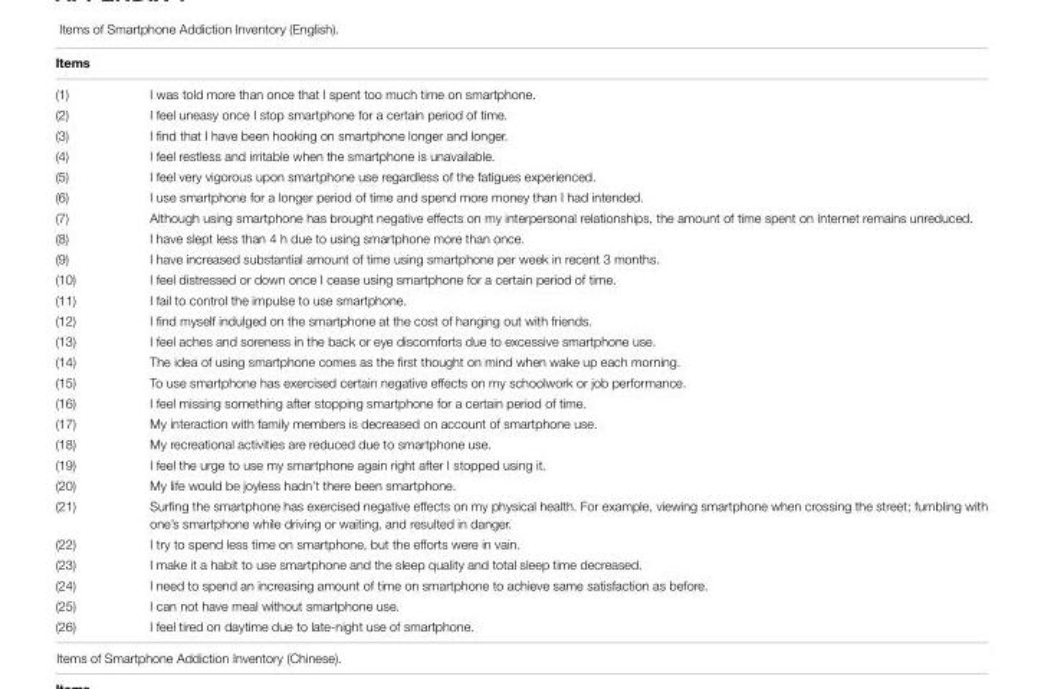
<table><thead><tr><td colspan="2">Items</td></tr><tr><td>(1)</td><td>I was told more than once that I spent too much time on smartphone.</td></tr></thead><tbody><tr><td>(2)</td><td>I feel uneasy once I stop smartphone for a certain period of time.</td></tr><tr><td>(3)</td><td>I find that I have been hooking on smartphone longer and longer.</td></tr><tr><td>(4)</td><td>I feel restless and irritable when the smartphone is unavailable.</td></tr><tr><td>(5)</td><td>I feel very vigorous upon smartphone use regardless of the fatigues experienced.</td></tr><tr><td>(6)</td><td>I use smartphone for a longer period of time and spend more money than I had intended.</td></tr><tr><td>(7)</td><td>Although using smartphone has brought negative effects on my interpersonal relationships, the amount of time spent on Internet remains unreduced.</td></tr><tr><td>(8)</td><td>I have slept less than 4 h due to using smartphone more than once.</td></tr><tr><td>(9)</td><td>I have increased substantial amount of time using smartphone per week in recent 3 months.</td></tr><tr><td>(10)</td><td>I feel distressed or down once I cease using smartphone for a certain period of time.</td></tr><tr><td>(11)</td><td>I fail to control the impulse to use smartphone.</td></tr><tr><td>(12)</td><td>I find myself indulged on the smartphone at the cost of hanging out with friends.</td></tr><tr><td>(13)</td><td>I feel aches and soreness in the back or eye discomforts due to excessive smartphone use.</td></tr><tr><td>(14)</td><td>The idea of using smartphone comes as the first thought on mind when wake up each morning.</td></tr><tr><td>(15)</td><td>To use smartphone has exercised certain negative effects on my schoolwork or job performance.</td></tr><tr><td>(16)</td><td>I feel missing something after stopping smartphone for a certain period of time.</td></tr><tr><td>(17)</td><td>My interaction with family members is decreased on account of smartphone use.</td></tr><tr><td>(18)</td><td>My recreational activities are reduced due to smartphone use.</td></tr><tr><td>(19)</td><td>I feel the urge to use my smartphone again right after I stopped using it.</td></tr><tr><td>(20)</td><td>My life would be joyless hadn’t there been smartphone.</td></tr><tr><td>(21)</td><td>Surfing the smartphone has exercised negative effects on my physical health. For example, viewing smartphone when crossing the street; fumbling with one’s smartphone while driving or waiting, and resulted in danger.</td></tr><tr><td>(22)</td><td>I try to spend less time on smartphone, but the efforts were in vain.</td></tr><tr><td>(23)</td><td>I make it a habit to use smartphone and the sleep quality and total sleep time decreased.</td></tr><tr><td>(24)</td><td>I need to spend an increasing amount of time on smartphone to achieve same satisfaction as before.</td></tr><tr><td>(25)</td><td>I can not have meal without smartphone use.</td></tr><tr><td>(26)</td><td>I feel tired on daytime due to late-night use of smartphone.</td></tr></tbody></table>